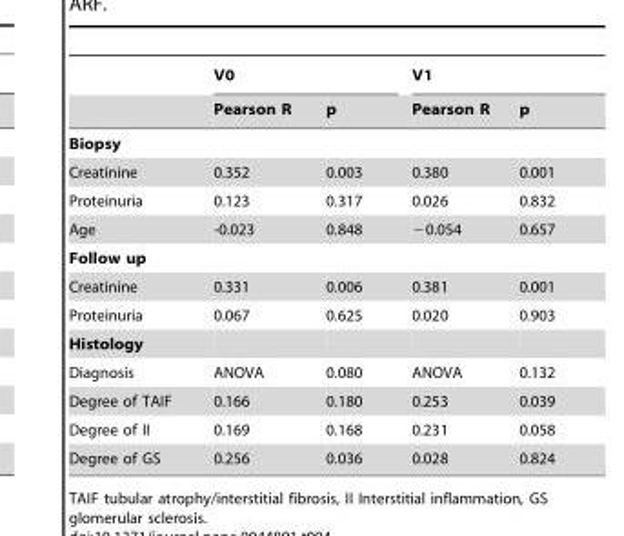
<table><thead><tr><td rowspan="2"></td><td colspan="2">V0</td><td colspan="2">V1</td></tr><tr><td>Pearson R</td><td>p</td><td>Pearson R</td><td>p</td></tr></thead><tbody><tr><td colspan="5">Biopsy</td></tr><tr><td>Creatinine</td><td>0.352</td><td>0.003</td><td>0.380</td><td>0.001</td></tr><tr><td>Proteinuria</td><td>0.123</td><td>0.317</td><td>0.026</td><td>0.832</td></tr><tr><td>Age</td><td>-0.023</td><td>0.848</td><td>−0.054</td><td>0.657</td></tr><tr><td colspan="5">Follow up</td></tr><tr><td>Creatinine</td><td>0.331</td><td>0.006</td><td>0.381</td><td>0.001</td></tr><tr><td>Proteinuria</td><td>0.067</td><td>0.625</td><td>0.020</td><td>0.903</td></tr><tr><td colspan="5">Histology</td></tr><tr><td>Diagnosis</td><td>ANOVA</td><td>0.080</td><td>ANOVA</td><td>0.132</td></tr><tr><td>Degree of TAIF</td><td>0.166</td><td>0.180</td><td>0.253</td><td>0.039</td></tr><tr><td>Degree of II</td><td>0.169</td><td>0.168</td><td>0.231</td><td>0.058</td></tr><tr><td>Degree of GS</td><td>0.256</td><td>0.036</td><td>0.028</td><td>0.824</td></tr></tbody></table>